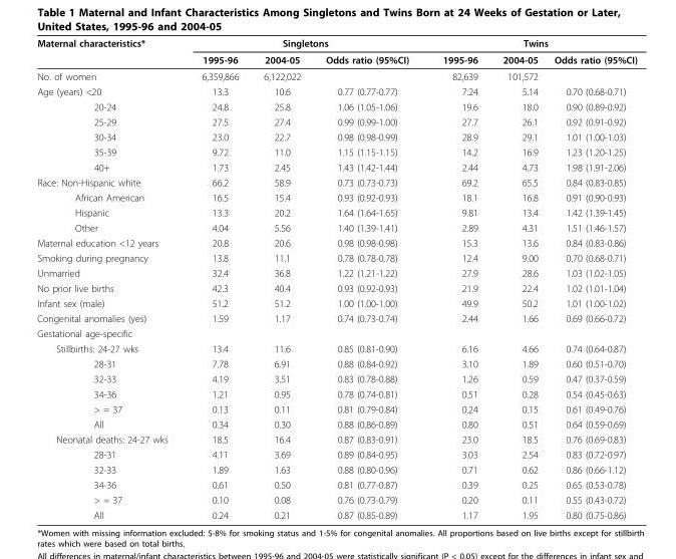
<table><thead><tr><td rowspan="2">Maternal characteristics*</td><td colspan="3">Singletons</td><td colspan="3">Twins</td></tr><tr><td>1995-96</td><td>2004-05</td><td>Odds ratio (95%CI)</td><td>1995-96</td><td>2004-05</td><td>Odds ratio (95%CI)</td></tr></thead><tbody><tr><td>No. of women</td><td>6,359,866</td><td>6,122,022</td><td></td><td>82,639</td><td>101,572</td><td></td></tr><tr><td>Age (years) &lt;20</td><td>13.3</td><td>10.6</td><td>0.77 (0.77-0.77)</td><td>7.24</td><td>5.14</td><td>0.70 (0.68-0.71)</td></tr><tr><td>20-24</td><td>24.8</td><td>25.8</td><td>1.06 (1.05-1.06)</td><td>19.6</td><td>18.0</td><td>0.90 (0.89-0.92)</td></tr><tr><td>25-29</td><td>27.5</td><td>27.4</td><td>0.99 (0.99-1.00)</td><td>27.7</td><td>26.1</td><td>0.92 (0.91-0.92)</td></tr><tr><td>30-34</td><td>23.0</td><td>22.7</td><td>0.98 (0.98-0.99)</td><td>28.9</td><td>29.1</td><td>1.01 (1.00-1.03)</td></tr><tr><td>35-39</td><td>9.72</td><td>11.0</td><td>1.15 (1.15-1.15)</td><td>14.2</td><td>16.9</td><td>1.23 (1.20-1.25)</td></tr><tr><td>40+</td><td>1.73</td><td>2.45</td><td>1.43 (1.42-1.44)</td><td>2.44</td><td>4.73</td><td>1.98 (1.91-2.06)</td></tr><tr><td>Race: Non-Hispanic white</td><td>66.2</td><td>58.9</td><td>0.73 (0.73-0.73)</td><td>69.2</td><td>65.5</td><td>0.84 (0.83-0.85)</td></tr><tr><td>African American</td><td>16.5</td><td>15.4</td><td>0.93 (0.92-0.93)</td><td>18.1</td><td>16.8</td><td>0.91 (0.90-0.93)</td></tr><tr><td>Hispanic</td><td>13.3</td><td>20.2</td><td>1.64 (1.64-1.65)</td><td>9.81</td><td>13.4</td><td>1.42 (1.39-1.45)</td></tr><tr><td>Other</td><td>4.04</td><td>5.56</td><td>1.40 (1.39-1.41)</td><td>2.89</td><td>4.31</td><td>1.51 (1.46-1.57)</td></tr><tr><td>Maternal education &lt;12 years</td><td>20.8</td><td>20.6</td><td>0.98 (0.98-0.98)</td><td>15.3</td><td>13.6</td><td>0.84 (0.83-0.86)</td></tr><tr><td>Smoking during pregnancy</td><td>13.8</td><td>11.1</td><td>0.78 (0.78-0.78)</td><td>12.4</td><td>9.00</td><td>0.70 (0.68-0.71)</td></tr><tr><td>Unmarried</td><td>32.4</td><td>36.8</td><td>1.22 (1.21-1.22)</td><td>27.9</td><td>28.6</td><td>1.03 (1.02-1.05)</td></tr><tr><td>No prior live births</td><td>42.3</td><td>40.4</td><td>0.93 (0.92-0.93)</td><td>21.9</td><td>22.4</td><td>1.02 (1.01-1.04)</td></tr><tr><td>Infant sex (male)</td><td>51.2</td><td>51.2</td><td>1.00 (1.00-1.00)</td><td>49.9</td><td>50.2</td><td>1.01 (1.00-1.02)</td></tr><tr><td>Congenital anomalies (yes)</td><td>1.59</td><td>1.17</td><td>0.74 (0.73-0.74)</td><td>2.44</td><td>1.66</td><td>0.69 (0.66-0.72)</td></tr><tr><td colspan="7">Gestational age-specific</td></tr><tr><td>Stillbirths: 24-27 wks</td><td>13.4</td><td>11.6</td><td>0.85 (0.81-0.90)</td><td>6.16</td><td>4.66</td><td>0.74 (0.64-0.87)</td></tr><tr><td>28-31</td><td>7.78</td><td>6.91</td><td>0.88 (0.84-0.92)</td><td>3.10</td><td>1.89</td><td>0.60 (0.51-0.70)</td></tr><tr><td>32-33</td><td>4.19</td><td>3.51</td><td>0.83 (0.78-0.88)</td><td>1.26</td><td>0.59</td><td>0.47 (0.37-0.59)</td></tr><tr><td>34-36</td><td>1.21</td><td>0.95</td><td>0.78 (0.74-0.81)</td><td>0.51</td><td>0.28</td><td>0.54 (0.45-0.63)</td></tr><tr><td>&gt; = 37</td><td>0.13</td><td>0.11</td><td>0.81 (0.79-0.84)</td><td>0.24</td><td>0.15</td><td>0.61 (0.49-0.76)</td></tr><tr><td>All</td><td>0.34</td><td>0.30</td><td>0.88 (0.86-0.89)</td><td>0.80</td><td>0.51</td><td>0.64 (0.59-0.69)</td></tr><tr><td>Neonatal deaths: 24-27 wks</td><td>18.5</td><td>16.4</td><td>0.87 (0.83-0.91)</td><td>23.0</td><td>18.5</td><td>0.76 (0.69-0.83)</td></tr><tr><td>28-31</td><td>4.11</td><td>3.69</td><td>0.89 (0.84-0.95)</td><td>3.03</td><td>2.54</td><td>0.83 (0.72-0.97)</td></tr><tr><td>32-33</td><td>1.89</td><td>1.63</td><td>0.88 (0.80-0.96)</td><td>0.71</td><td>0.62</td><td>0.86 (0.66-1.12)</td></tr><tr><td>34-36</td><td>0.61</td><td>0.50</td><td>0.81 (0.77-0.87)</td><td>0.39</td><td>0.25</td><td>0.65 (0.53-0.78)</td></tr><tr><td>&gt; = 37</td><td>0.10</td><td>0.08</td><td>0.76 (0.73-0.79)</td><td>0.20</td><td>0.11</td><td>0.55 (0.43-0.72)</td></tr><tr><td>All</td><td>0.24</td><td>0.21</td><td>0.87 (0.85-0.89)</td><td>1.17</td><td>1.95</td><td>0.80 (0.75-0.86)</td></tr></tbody></table>